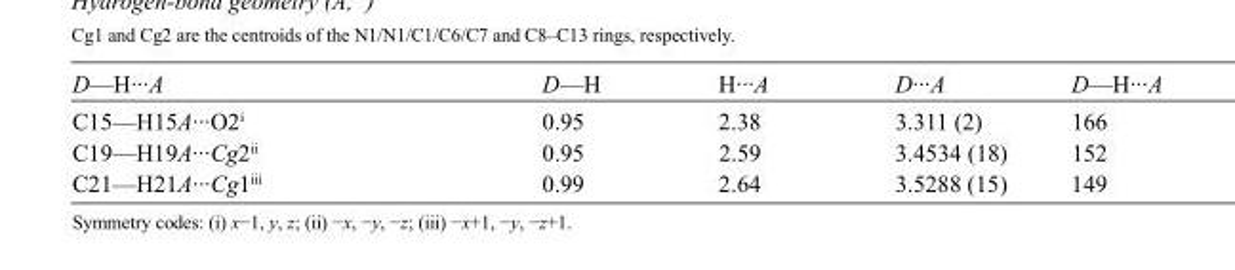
<table><tbody><tr><td>D—H···A</td><td>D—H</td><td>H···A</td><td>D···A</td><td>D—H···A</td></tr><tr><td>C15—H15A···O2<sup>i</sup></td><td>0.95</td><td>2.38</td><td>3.311 (2)</td><td>166</td></tr><tr><td>C19—H19A···Cg2<sup>ii</sup></td><td>0.95</td><td>2.59</td><td>3.4534 (18)</td><td>152</td></tr><tr><td>C21—H21A···Cg1<sup>iii</sup></td><td>0.99</td><td>2.64</td><td>3.5288 (15)</td><td>149</td></tr></tbody></table>